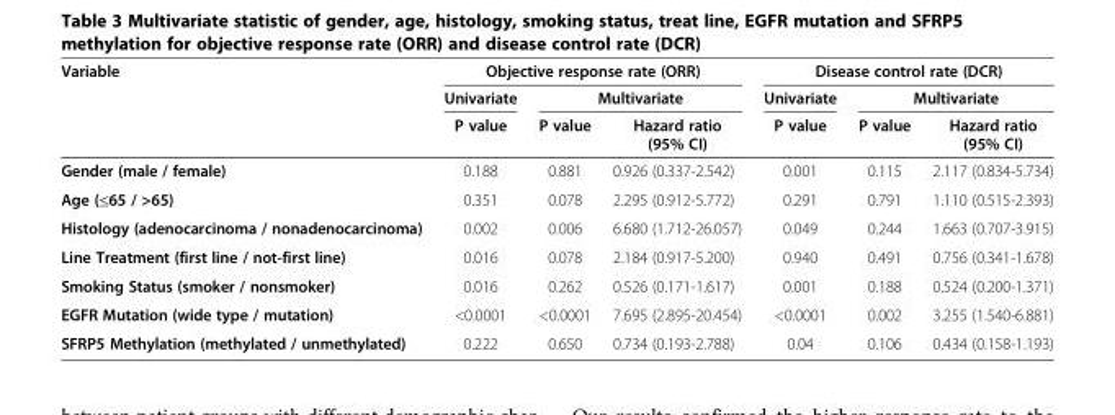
<table><thead><tr><td rowspan="3">Variable</td><td colspan="3">Objective response rate (ORR)</td><td colspan="3">Disease control rate (DCR)</td></tr><tr><td rowspan="2">Univariate P value</td><td colspan="2">Multivariate</td><td rowspan="2">Univariate P value</td><td colspan="2">Multivariate</td></tr><tr><td>P value</td><td>Hazard ratio (95% CI)</td><td>P value</td><td>Hazard ratio (95% CI)</td></tr></thead><tbody><tr><td>Gender (male / female)</td><td>0.188</td><td>0.881</td><td>0.926 (0.337-2.542)</td><td>0.001</td><td>0.115</td><td>2.117 (0.834-5.734)</td></tr><tr><td>Age (≤65 / &gt;65)</td><td>0.351</td><td>0.078</td><td>2.295 (0.912-5.772)</td><td>0.291</td><td>0.791</td><td>1.110 (0.515-2.393)</td></tr><tr><td>Histology (adenocarcinoma / nonadenocarcinoma)</td><td>0.002</td><td>0.006</td><td>6.680 (1.712-26.057)</td><td>0.049</td><td>0.244</td><td>1.663 (0.707-3.915)</td></tr><tr><td>Line Treatment (first line / not-first line)</td><td>0.016</td><td>0.078</td><td>2.184 (0.917-5.200)</td><td>0.940</td><td>0.491</td><td>0.756 (0.341-1.678)</td></tr><tr><td>Smoking Status (smoker / nonsmoker)</td><td>0.016</td><td>0.262</td><td>0.526 (0.171-1.617)</td><td>0.001</td><td>0.188</td><td>0.524 (0.200-1.371)</td></tr><tr><td>EGFR Mutation (wide type / mutation)</td><td>&lt;0.0001</td><td>&lt;0.0001</td><td>7.695 (2.895-20.454)</td><td>&lt;0.0001</td><td>0.002</td><td>3.255 (1.540-6.881)</td></tr><tr><td>SFRP5 Methylation (methylated / unmethylated)</td><td>0.222</td><td>0.650</td><td>0.734 (0.193-2.788)</td><td>0.04</td><td>0.106</td><td>0.434 (0.158-1.193)</td></tr></tbody></table>